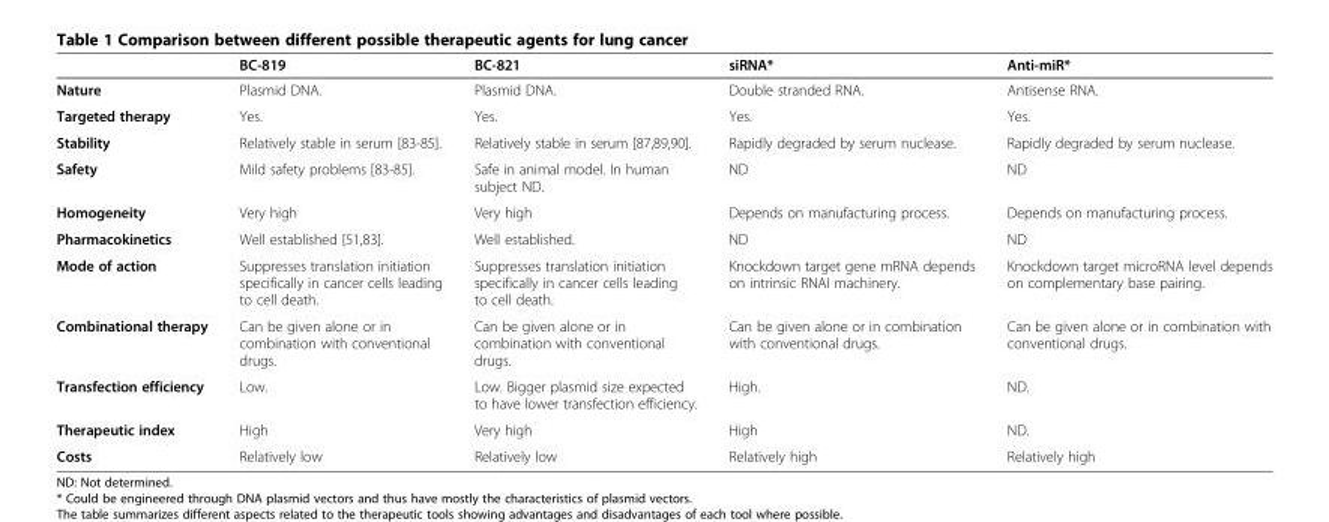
<table><thead><tr><td></td><td>BC-819</td><td>BC-821</td><td>siRNA*</td><td>Anti-miR*</td></tr></thead><tbody><tr><td>Nature</td><td>Plasmid DNA.</td><td>Plasmid DNA.</td><td>Double stranded RNA.</td><td>Antisense RNA.</td></tr><tr><td>Targeted therapy</td><td>Yes.</td><td>Yes.</td><td>Yes.</td><td>Yes.</td></tr><tr><td>Stability</td><td>Relatively stable in serum [83-85].</td><td>Relatively stable in serum [87,89,90].</td><td>Rapidly degraded by serum nuclease.</td><td>Rapidly degraded by serum nuclease.</td></tr><tr><td>Safety</td><td>Mild safety problems [83-85].</td><td>Safe in animal model. In human subject ND.</td><td>ND</td><td>ND</td></tr><tr><td>Homogeneity</td><td>Very high</td><td>Very high</td><td>Depends on manufacturing process.</td><td>Depends on manufacturing process.</td></tr><tr><td>Pharmacokinetics</td><td>Well established [51,83].</td><td>Well established.</td><td>ND</td><td>ND</td></tr><tr><td>Mode of action</td><td>Suppresses translation initiation specifically in cancer cells leading to cell death.</td><td>Suppresses translation initiation specifically in cancer cells leading to cell death.</td><td>Knockdown target gene mRNA depends on intrinsic RNAI machinery.</td><td>Knockdown target microRNA level depends on complementary base pairing.</td></tr><tr><td>Combinational therapy</td><td>Can be given alone or in combination with conventional drugs.</td><td>Can be given alone or in combination with conventional drugs.</td><td>Can be given alone or in combination with conventional drugs.</td><td>Can be given alone or in combination with conventional drugs.</td></tr><tr><td>Transfection efficiency</td><td>Low.</td><td>Low. Bigger plasmid size expected to have lower transfection efficiency.</td><td>High.</td><td>ND.</td></tr><tr><td>Therapeutic index</td><td>High</td><td>Very high</td><td>High</td><td>ND.</td></tr><tr><td>Costs</td><td>Relatively low</td><td>Relatively low</td><td>Relatively high</td><td>Relatively high</td></tr></tbody></table>